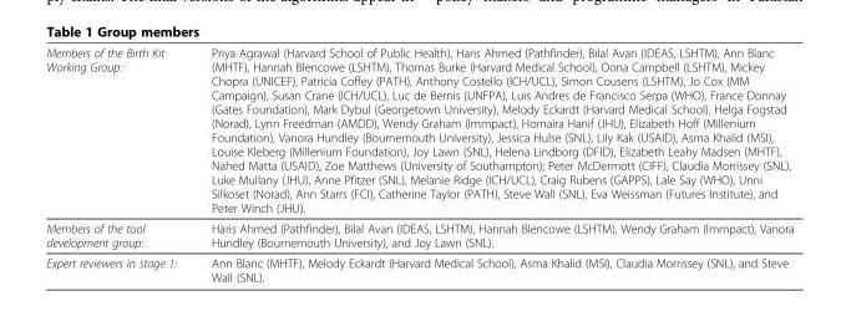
<table><tbody><tr><td>Members of the Birth Kit Working Group:</td><td>Priya Agrawal (Harvard School of Public Health), Haris Ahmed (Pathfinder), Bilal Avan (IDEAS, LSHTM), Ann Blanc (MHTF), Hannah Blencowe (LSHTM), Thomas Burke (Harvard Medical School), Oona Campbell (LSHTM), Mickey Chopra (UNICEF), Patricia Coffey (PATH), Anthony Costello (ICH/UCL), Simon Cousens (LSHTM), Jo Cox (MM Campaign), Susan Crane (ICH/UCL), Luc de Bernis (UNFPA), Luis Andres de Francisco Serpa (WHO), France Donnay (Gates Foundation), Mark Dybul (Georgetown University), Melody Eckardt (Harvard Medical School), Helga Fogstad (Norad), Lynn Freedman (AMDD), Wendy Graham (Immpact), Homaira Hanif (JHU), Elizabeth Hoff (Millenium Foundation), Vanora Hundley (Bournemouth University), Jessica Hulse (SNL), Lily Kak (USAID), Asma Khalid (MSI), Louise Kleberg (Millenium Foundation), Joy Lawn (SNL), Helena Lindborg (DFID), Elizabeth Leahy Madsen (MHTF), Nahed Matta (USAID), Zoe Matthews (University of Southampton); Peter McDermott (CIFF), Claudia Morrissey (SNL), Luke Mullany (JHU), Anne Pfitzer (SNL), Melanie Ridge (ICH/UCL), Craig Rubens (GAPPS), Lale Say (WHO), Unni Silkoset (Norad), Ann Starrs (FCI), Catherine Taylor (PATH), Steve Wall (SNL), Eva Weissman (Futures Institute), and Peter Winch (JHU).</td></tr><tr><td>Members of the tool development group:</td><td>Haris Ahmed (Pathfinder), Bilal Avan (IDEAS, LSHTM), Hannah Blencowe (LSHTM), Wendy Graham (Immpact), Vanora Hundley (Bournemouth University), and Joy Lawn (SNL).</td></tr><tr><td>Expert reviewers in stage 1:</td><td>Ann Blanc (MHTF), Melody Eckardt (Harvard Medical School), Asma Khalid (MSI), Claudia Morrissey (SNL), and Steve Wall (SNL).</td></tr></tbody></table>